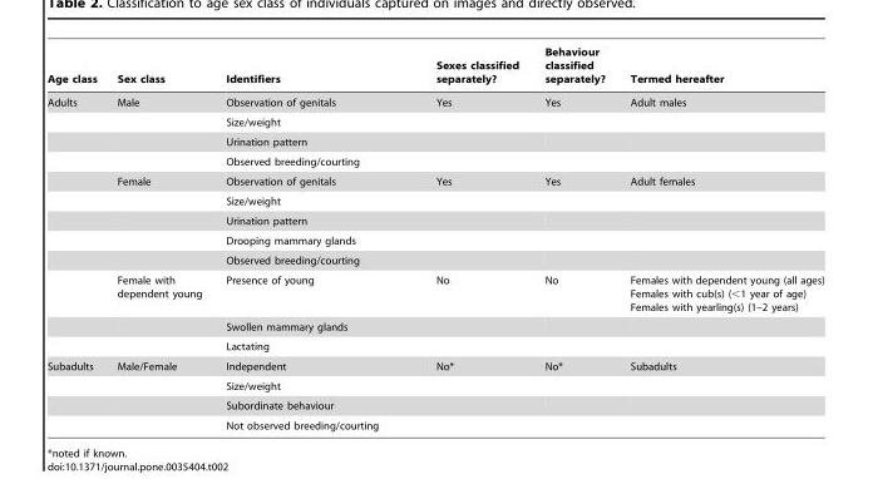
<table><thead><tr><td>Age class</td><td>Sex class</td><td>Identifiers</td><td>Sexes classified separately?</td><td>Behaviour classified separately?</td><td>Termed hereafter</td></tr></thead><tbody><tr><td rowspan="12">Adults</td><td>Male</td><td>Observation of genitals</td><td>Yes</td><td>Yes</td><td>Adult males</td></tr><tr><td></td><td>Size/weight</td><td></td><td></td><td></td></tr><tr><td></td><td>Urination pattern</td><td></td><td></td><td></td></tr><tr><td></td><td>Observed breeding/courting</td><td></td><td></td><td></td></tr><tr><td>Female</td><td>Observation of genitals</td><td>Yes</td><td>Yes</td><td>Adult females</td></tr><tr><td></td><td>Size/weight</td><td></td><td></td><td></td></tr><tr><td></td><td>Urination pattern</td><td></td><td></td><td></td></tr><tr><td></td><td>Drooping mammary glands</td><td></td><td></td><td></td></tr><tr><td></td><td>Observed breeding/courting</td><td></td><td></td><td></td></tr><tr><td>Female with dependent young</td><td>Presence of young</td><td>No</td><td>No</td><td>Females with dependent young (all ages) Females with cub(s) (&lt;1 year of age) Females with yearling(s) (1–2 years)</td></tr><tr><td></td><td>Swollen mammary glands</td><td></td><td></td><td></td></tr><tr><td></td><td>Lactating</td><td></td><td></td><td></td></tr><tr><td rowspan="4">Subadults</td><td>Male/Female</td><td>Independent</td><td>No*</td><td>No*</td><td>Subadults</td></tr><tr><td></td><td>Size/weight</td><td></td><td></td><td></td></tr><tr><td></td><td>Subordinate behaviour</td><td></td><td></td><td></td></tr><tr><td></td><td>Not observed breeding/courting</td><td></td><td></td><td></td></tr></tbody></table>